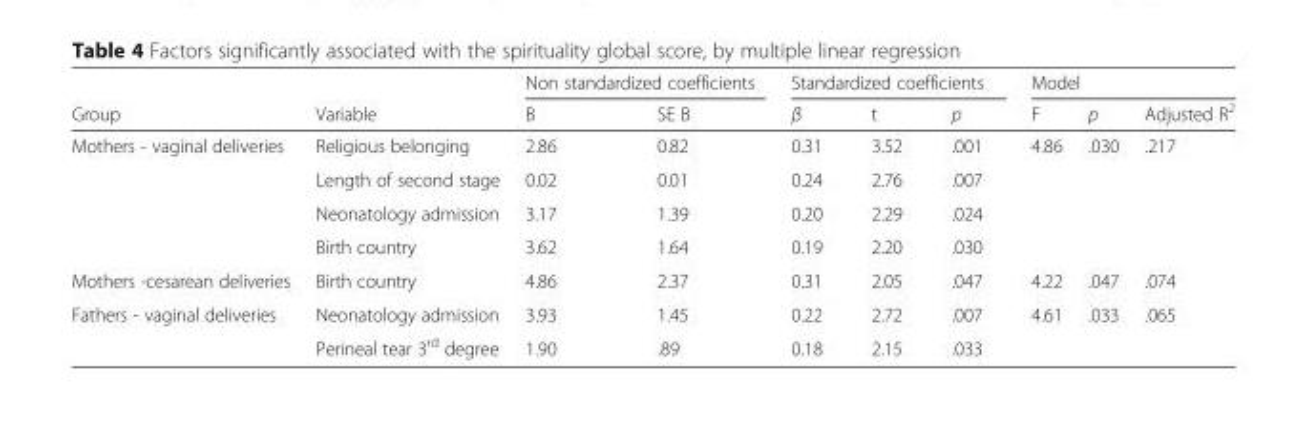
<table><thead><tr><td rowspan="2">Group</td><td rowspan="2">Variable</td><td colspan="2">Non standardized coefficients</td><td colspan="3">Standardized coefficients</td><td colspan="3">Model</td></tr><tr><td>B</td><td>SE B</td><td>β</td><td>t</td><td>p</td><td>F</td><td>p</td><td>Adjusted R<sup>2</sup></td></tr></thead><tbody><tr><td rowspan="4">Mothers - vaginal deliveries</td><td>Religious belonging</td><td>2.86</td><td>0.82</td><td>0.31</td><td>3.52</td><td>.001</td><td rowspan="4">4.86</td><td rowspan="4">.030</td><td rowspan="4">.217</td></tr><tr><td>Length of second stage</td><td>0.02</td><td>0.01</td><td>0.24</td><td>2.76</td><td>.007</td></tr><tr><td>Neonatology admission</td><td>3.17</td><td>1.39</td><td>0.20</td><td>2.29</td><td>.024</td></tr><tr><td>Birth country</td><td>3.62</td><td>1.64</td><td>0.19</td><td>2.20</td><td>.030</td></tr><tr><td>Mothers -cesarean deliveries</td><td>Birth country</td><td>4.86</td><td>2.37</td><td>0.31</td><td>2.05</td><td>.047</td><td>4.22</td><td>.047</td><td>.074</td></tr><tr><td rowspan="2">Fathers - vaginal deliveries</td><td>Neonatology admission</td><td>3.93</td><td>1.45</td><td>0.22</td><td>2.72</td><td>.007</td><td rowspan="2">4.61</td><td rowspan="2">.033</td><td rowspan="2">.065</td></tr><tr><td>Perineal tear 3<sup>rd</sup> degree</td><td>1.90</td><td>.89</td><td>0.18</td><td>2.15</td><td>.033</td></tr></tbody></table>